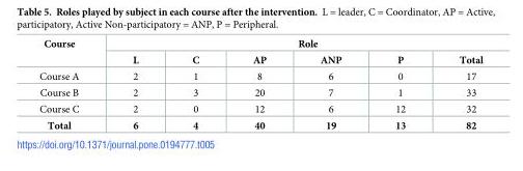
<table><thead><tr><td rowspan="2">Course</td><td colspan="6">Role</td></tr><tr><td>L</td><td>C</td><td>AP</td><td>ANP</td><td>P</td><td>Total</td></tr></thead><tbody><tr><td>Course A</td><td>2</td><td>1</td><td>8</td><td>6</td><td>0</td><td>17</td></tr><tr><td>Course B</td><td>2</td><td>3</td><td>20</td><td>7</td><td>1</td><td>33</td></tr><tr><td>Course C</td><td>2</td><td>0</td><td>12</td><td>6</td><td>12</td><td>32</td></tr><tr><td>Total</td><td>6</td><td>4</td><td>40</td><td>19</td><td>13</td><td>82</td></tr></tbody></table>